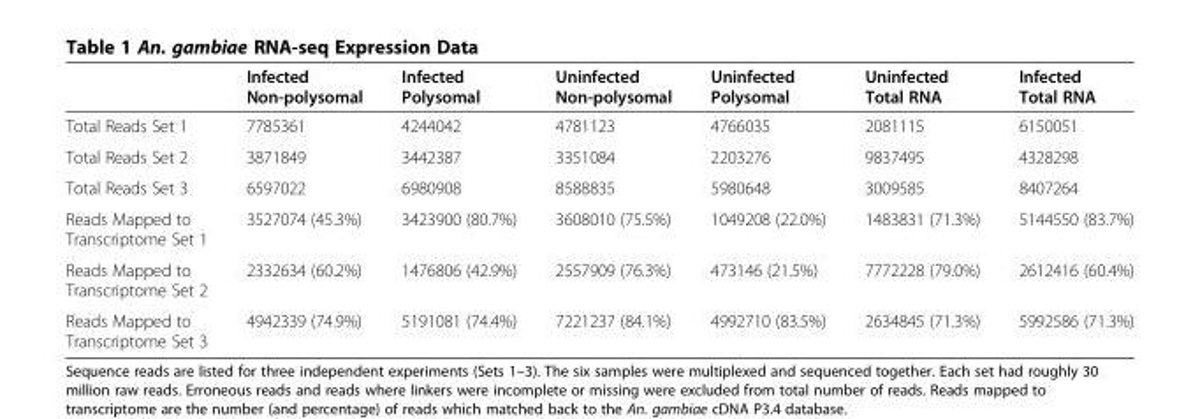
<table><thead><tr><td></td><td>Infected Non-polysomal</td><td>Infected Polysomal</td><td>Uninfected Non-polysomal</td><td>Uninfected Polysomal</td><td>Uninfected Total RNA</td><td>Infected Total RNA</td></tr></thead><tbody><tr><td>Total Reads Set 1</td><td>7785361</td><td>4244042</td><td>4781123</td><td>4766035</td><td>2081115</td><td>6150051</td></tr><tr><td>Total Reads Set 2</td><td>3871849</td><td>3442387</td><td>3351084</td><td>2203276</td><td>9837495</td><td>4328298</td></tr><tr><td>Total Reads Set 3</td><td>6597022</td><td>6980908</td><td>8588835</td><td>5980648</td><td>3009585</td><td>8407264</td></tr><tr><td>Reads Mapped to Transcriptome Set 1</td><td>3527074 (45.3%)</td><td>3423900 (80.7%)</td><td>3608010 (75.5%)</td><td>1049208 (22.0%)</td><td>1483831 (71.3%)</td><td>5144550 (83.7%)</td></tr><tr><td>Reads Mapped to Transcriptome Set 2</td><td>2332634 (60.2%)</td><td>1476806 (42.9%)</td><td>2557909 (76.3%)</td><td>473146 (21.5%)</td><td>7772228 (79.0%)</td><td>2612416 (60.4%)</td></tr><tr><td>Reads Mapped to Transcriptome Set 3</td><td>4942339 (74.9%)</td><td>5191081 (74.4%)</td><td>7221237 (84.1%)</td><td>4992710 (83.5%)</td><td>2634845 (71.3%)</td><td>5992586 (71.3%)</td></tr></tbody></table>